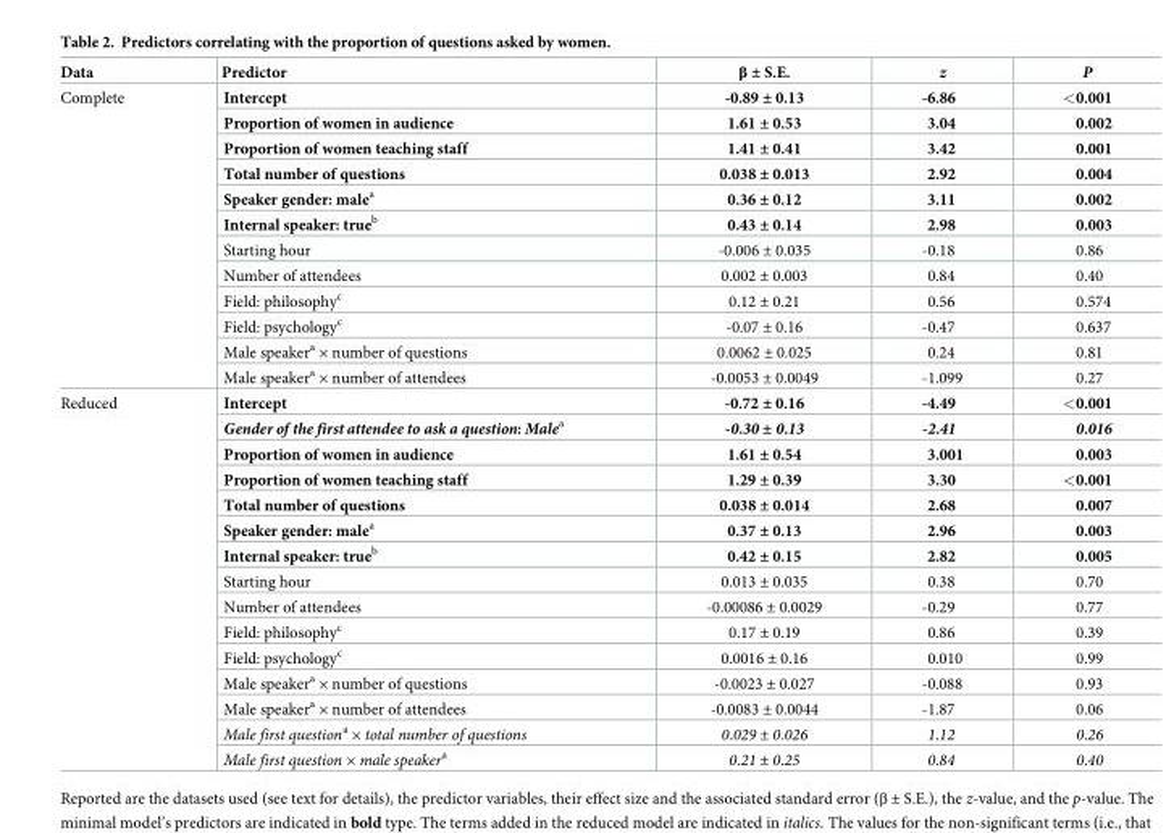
<table><thead><tr><td>Data</td><td>Predictor</td><td>β ± S.E.</td><td>z</td><td>P</td></tr></thead><tbody><tr><td rowspan="12">Complete</td><td>Intercept</td><td>-0.89 ± 0.13</td><td>-6.86</td><td>&lt;0.001</td></tr><tr><td>Proportion of women in audience</td><td>1.61 ± 0.53</td><td>3.04</td><td>0.002</td></tr><tr><td>Proportion of women teaching staff</td><td>1.41 ± 0.41</td><td>3.42</td><td>0.001</td></tr><tr><td>Total number of questions</td><td>0.038 ± 0.013</td><td>2.92</td><td>0.004</td></tr><tr><td>Speaker gender: male<sup>a</sup></td><td>0.36 ± 0.12</td><td>3.11</td><td>0.002</td></tr><tr><td>Internal speaker: true<sup>b</sup></td><td>0.43 ± 0.14</td><td>2.98</td><td>0.003</td></tr><tr><td>Starting hour</td><td>-0.006 ± 0.035</td><td>-0.18</td><td>0.86</td></tr><tr><td>Number of attendees</td><td>0.002 ± 0.003</td><td>0.84</td><td>0.40</td></tr><tr><td>Field: philosophy<sup>c</sup></td><td>0.12 ± 0.21</td><td>0.56</td><td>0.574</td></tr><tr><td>Field: psychology<sup>c</sup></td><td>-0.07 ± 0.16</td><td>-0.47</td><td>0.637</td></tr><tr><td>Male speaker<sup>a</sup> × number of questions</td><td>0.0062 ± 0.025</td><td>0.24</td><td>0.81</td></tr><tr><td>Male speaker<sup>a</sup> × number of attendees</td><td>-0.0053 ± 0.0049</td><td>-1.099</td><td>0.27</td></tr><tr><td rowspan="15">Reduced</td><td>Intercept</td><td>-0.72 ± 0.16</td><td>-4.49</td><td>&lt;0.001</td></tr><tr><td>Gender of the first attendee to ask a question: Male<sup>a</sup></td><td>-0.30 ± 0.13</td><td>-2.41</td><td>0.016</td></tr><tr><td>Proportion of women in audience</td><td>1.61 ± 0.54</td><td>3.001</td><td>0.003</td></tr><tr><td>Proportion of women teaching staff</td><td>1.29 ± 0.39</td><td>3.30</td><td>&lt;0.001</td></tr><tr><td>Total number of questions</td><td>0.038 ± 0.014</td><td>2.68</td><td>0.007</td></tr><tr><td>Speaker gender: male<sup>a</sup></td><td>0.37 ± 0.13</td><td>2.96</td><td>0.003</td></tr><tr><td>Internal speaker: true<sup>b</sup></td><td>0.42 ± 0.15</td><td>2.82</td><td>0.005</td></tr><tr><td>Starting hour</td><td>0.013 ± 0.035</td><td>0.38</td><td>0.70</td></tr><tr><td>Number of attendees</td><td>-0.00086 ± 0.0029</td><td>-0.29</td><td>0.77</td></tr><tr><td>Field: philosophy<sup>c</sup></td><td>0.17 ± 0.19</td><td>0.86</td><td>0.39</td></tr><tr><td>Field: psychology<sup>c</sup></td><td>0.0016 ± 0.16</td><td>0.010</td><td>0.99</td></tr><tr><td>Male speaker<sup>a</sup> × number of questions</td><td>-0.0023 ± 0.027</td><td>-0.088</td><td>0.93</td></tr><tr><td>Male speaker<sup>a</sup> × number of attendees</td><td>-0.0083 ± 0.0044</td><td>-1.87</td><td>0.06</td></tr><tr><td>Male first question<sup>a</sup> × total number of questions</td><td>0.029 ± 0.026</td><td>1.12</td><td>0.26</td></tr><tr><td>Male first question × male speaker<sup>a</sup></td><td>0.21 ± 0.25</td><td>0.84</td><td>0.40</td></tr></tbody></table>